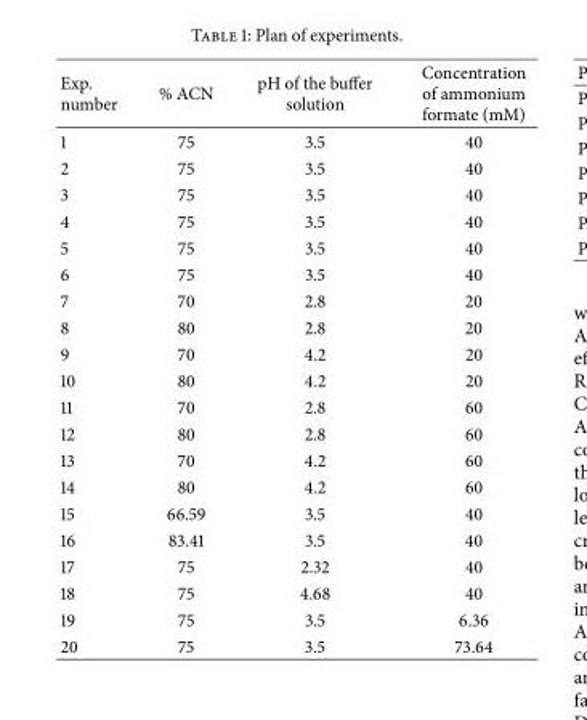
<table><thead><tr><td>Exp. number</td><td>% ACN</td><td>pH of the buffer solution</td><td>Concentration of ammonium formate (mM)</td></tr></thead><tbody><tr><td>1</td><td>75</td><td>3.5</td><td>40</td></tr><tr><td>2</td><td>75</td><td>3.5</td><td>40</td></tr><tr><td>3</td><td>75</td><td>3.5</td><td>40</td></tr><tr><td>4</td><td>75</td><td>3.5</td><td>40</td></tr><tr><td>5</td><td>75</td><td>3.5</td><td>40</td></tr><tr><td>6</td><td>75</td><td>3.5</td><td>40</td></tr><tr><td>7</td><td>70</td><td>2.8</td><td>20</td></tr><tr><td>8</td><td>80</td><td>2.8</td><td>20</td></tr><tr><td>9</td><td>70</td><td>4.2</td><td>20</td></tr><tr><td>10</td><td>80</td><td>4.2</td><td>20</td></tr><tr><td>11</td><td>70</td><td>2.8</td><td>60</td></tr><tr><td>12</td><td>80</td><td>2.8</td><td>60</td></tr><tr><td>13</td><td>70</td><td>4.2</td><td>60</td></tr><tr><td>14</td><td>80</td><td>4.2</td><td>60</td></tr><tr><td>15</td><td>66.59</td><td>3.5</td><td>40</td></tr><tr><td>16</td><td>83.41</td><td>3.5</td><td>40</td></tr><tr><td>17</td><td>75</td><td>2.32</td><td>40</td></tr><tr><td>18</td><td>75</td><td>4.68</td><td>40</td></tr><tr><td>19</td><td>75</td><td>3.5</td><td>6.36</td></tr><tr><td>20</td><td>75</td><td>3.5</td><td>73.64</td></tr></tbody></table>